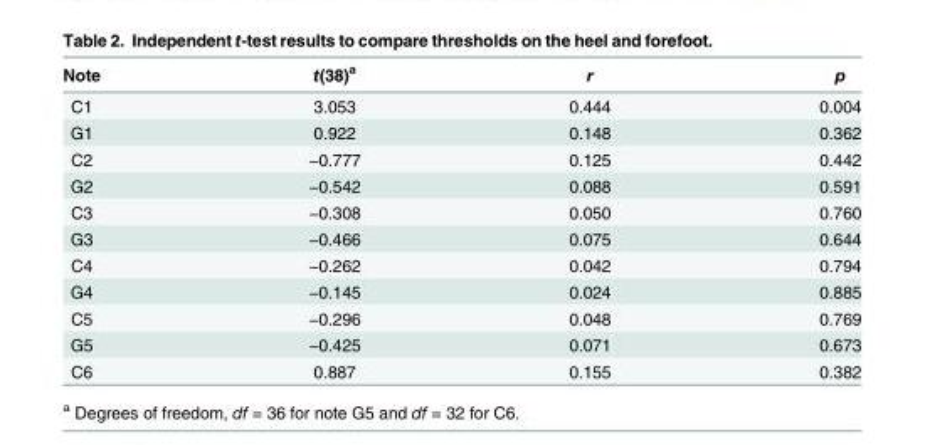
<table><thead><tr><td>Note</td><td>t(38)<sup>a</sup></td><td>r</td><td>p</td></tr></thead><tbody><tr><td>C1</td><td>3.053</td><td>0.444</td><td>0.004</td></tr><tr><td>G1</td><td>0.922</td><td>0.148</td><td>0.362</td></tr><tr><td>C2</td><td>−0.777</td><td>0.125</td><td>0.442</td></tr><tr><td>G2</td><td>−0.542</td><td>0.088</td><td>0.591</td></tr><tr><td>C3</td><td>−0.308</td><td>0.050</td><td>0.760</td></tr><tr><td>G3</td><td>−0.466</td><td>0.075</td><td>0.644</td></tr><tr><td>C4</td><td>−0.262</td><td>0.042</td><td>0.794</td></tr><tr><td>G4</td><td>−0.145</td><td>0.024</td><td>0.885</td></tr><tr><td>C5</td><td>−0.296</td><td>0.048</td><td>0.769</td></tr><tr><td>G5</td><td>−0.425</td><td>0.071</td><td>0.673</td></tr><tr><td>C6</td><td>0.887</td><td>0.155</td><td>0.382</td></tr></tbody></table>